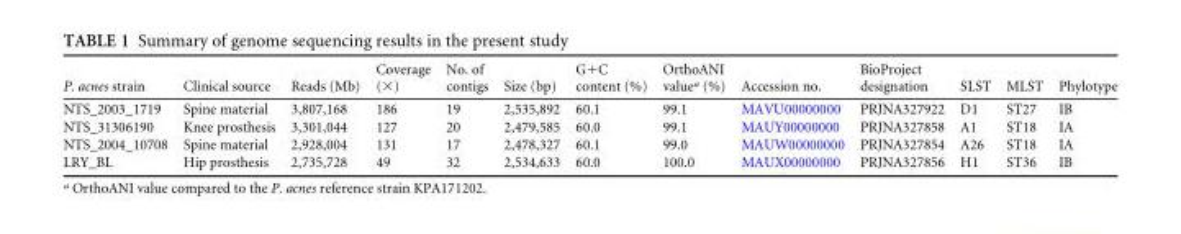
<table><thead><tr><td>P. acnes strain</td><td>Clinical source</td><td>Reads (Mb)</td><td>Coverage (×)</td><td>No. of contigs</td><td>Size (bp)</td><td>G+C content (%)</td><td>OrthoANI value<sup>a</sup> (%)</td><td>Accession no.</td><td>BioProject designation</td><td>SLST</td><td>MLST</td><td>Phylotype</td></tr></thead><tbody><tr><td>NTS_2003_1719</td><td>Spine material</td><td>3,807,168</td><td>186</td><td>19</td><td>2,535,892</td><td>60.1</td><td>99.1</td><td>MAVU00000000</td><td>PRJNA327922</td><td>D1</td><td>ST27</td><td>IB</td></tr><tr><td>NTS_31306190</td><td>Knee prosthesis</td><td>3,301,044</td><td>127</td><td>20</td><td>2,479,585</td><td>60.0</td><td>99.1</td><td>MAUY00000000</td><td>PRJNA327858</td><td>A1</td><td>ST18</td><td>IA</td></tr><tr><td>NTS_2004_10708</td><td>Spine material</td><td>2,928,004</td><td>131</td><td>17</td><td>2,478,327</td><td>60.1</td><td>99.0</td><td>MAUW00000000</td><td>PRJNA327854</td><td>A26</td><td>ST18</td><td>IA</td></tr><tr><td>LRY_BL</td><td>Hip prosthesis</td><td>2,735,728</td><td>49</td><td>32</td><td>2,534,633</td><td>60.0</td><td>100.0</td><td>MAUX00000000</td><td>PRJNA327856</td><td>H1</td><td>ST36</td><td>IB</td></tr></tbody></table>